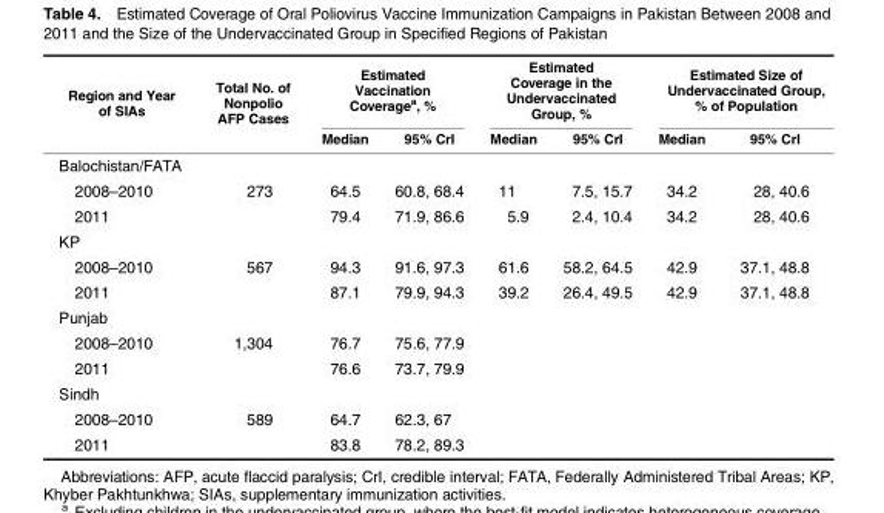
<table><thead><tr><td rowspan="2">Region and Year of SIAs</td><td rowspan="2">Total No. of Nonpolio AFP Cases</td><td colspan="2">Estimated Vaccination Coverage<sup>a</sup>, %</td><td colspan="2">Estimated Coverage in the Undervaccinated Group, %</td><td colspan="2">Estimated Size of Undervaccinated Group, % of Population</td></tr><tr><td>Median</td><td>95% CrI</td><td>Median</td><td>95% CrI</td><td>Median</td><td>95% CrI</td></tr></thead><tbody><tr><td colspan="8">Balochistan/FATA</td></tr><tr><td>2008–2010</td><td>273</td><td>64.5</td><td>60.8, 68.4</td><td>11</td><td>7.5, 15.7</td><td>34.2</td><td>28, 40.6</td></tr><tr><td>2011</td><td></td><td>79.4</td><td>71.9, 86.6</td><td>5.9</td><td>2.4, 10.4</td><td>34.2</td><td>28, 40.6</td></tr><tr><td colspan="8">KP</td></tr><tr><td>2008–2010</td><td>567</td><td>94.3</td><td>91.6, 97.3</td><td>61.6</td><td>58.2, 64.5</td><td>42.9</td><td>37.1, 48.8</td></tr><tr><td>2011</td><td></td><td>87.1</td><td>79.9, 94.3</td><td>39.2</td><td>26.4, 49.5</td><td>42.9</td><td>37.1, 48.8</td></tr><tr><td colspan="8">Punjab</td></tr><tr><td>2008–2010</td><td>1,304</td><td>76.7</td><td>75.6, 77.9</td><td></td><td></td><td></td><td></td></tr><tr><td>2011</td><td></td><td>76.6</td><td>73.7, 79.9</td><td></td><td></td><td></td><td></td></tr><tr><td colspan="8">Sindh</td></tr><tr><td>2008–2010</td><td>589</td><td>64.7</td><td>62.3, 67</td><td></td><td></td><td></td><td></td></tr><tr><td>2011</td><td></td><td>83.8</td><td>78.2, 89.3</td><td></td><td></td><td></td><td></td></tr></tbody></table>